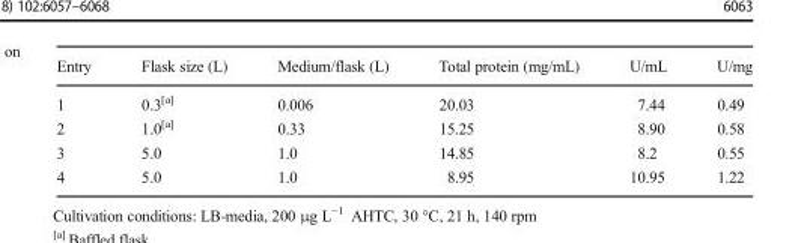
<table><thead><tr><td>Entry</td><td>Flask size (L)</td><td>Medium/flask (L)</td><td>Total protein (mg/mL)</td><td>U/mL</td><td>U/mg</td></tr></thead><tbody><tr><td>1</td><td>0.3<sup>[a]</sup></td><td>0.006</td><td>20.03</td><td>7.44</td><td>0.49</td></tr><tr><td>2</td><td>1.0<sup>[a]</sup></td><td>0.33</td><td>15.25</td><td>8.90</td><td>0.58</td></tr><tr><td>3</td><td>5.0</td><td>1.0</td><td>14.85</td><td>8.2</td><td>0.55</td></tr><tr><td>4</td><td>5.0</td><td>1.0</td><td>8.95</td><td>10.95</td><td>1.22</td></tr></tbody></table>